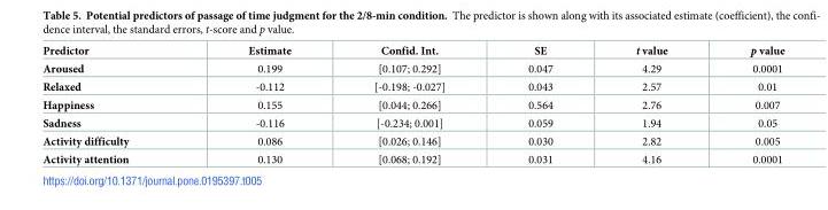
<table><thead><tr><td>Predictor</td><td>Estimate</td><td>Confid. Int.</td><td>SE</td><td>t value</td><td>p value</td></tr></thead><tbody><tr><td>Aroused</td><td>0.199</td><td>[0.107; 0.292]</td><td>0.047</td><td>4.29</td><td>0.0001</td></tr><tr><td>Relaxed</td><td>-0.112</td><td>[-0.198; -0.027]</td><td>0.043</td><td>2.57</td><td>0.01</td></tr><tr><td>Happiness</td><td>0.155</td><td>[0.044; 0.266]</td><td>0.564</td><td>2.76</td><td>0.007</td></tr><tr><td>Sadness</td><td>-0.116</td><td>[-0.234; 0.001]</td><td>0.059</td><td>1.94</td><td>0.05</td></tr><tr><td>Activity difficulty</td><td>0.086</td><td>[0.026; 0.146]</td><td>0.030</td><td>2.82</td><td>0.005</td></tr><tr><td>Activity attention</td><td>0.130</td><td>[0.068; 0.192]</td><td>0.031</td><td>4.16</td><td>0.0001</td></tr></tbody></table>